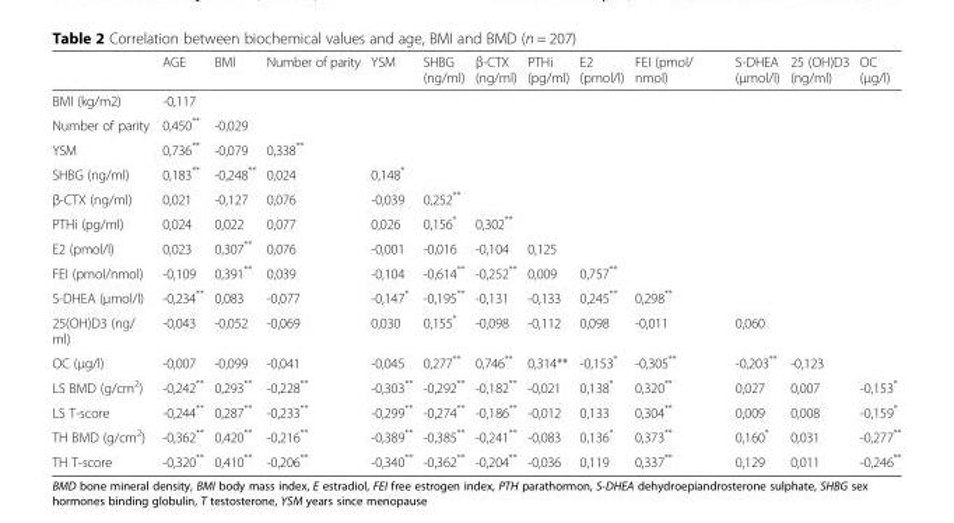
<table><thead><tr><td></td><td>AGE</td><td>BMI</td><td>Number of parity</td><td>YSM</td><td>SHBG (ng/ml)</td><td>β-CTX (ng/ml)</td><td>PTHi (pg/ml)</td><td>E2 (pmol/l)</td><td>FEI (pmol/ nmol)</td><td>S-DHEA (μmol/l)</td><td>25 (OH)D3 (ng/ml)</td><td>OC (μg/l)</td></tr></thead><tbody><tr><td>BMI (kg/m2)</td><td>-0,117</td><td></td><td></td><td></td><td></td><td></td><td></td><td></td><td></td><td></td><td></td><td></td></tr><tr><td>Number of parity</td><td>0,450**</td><td>-0,029</td><td></td><td></td><td></td><td></td><td></td><td></td><td></td><td></td><td></td><td></td></tr><tr><td>YSM</td><td>0,736**</td><td>-0,079</td><td>0,338**</td><td></td><td></td><td></td><td></td><td></td><td></td><td></td><td></td><td></td></tr><tr><td>SHBG (ng/ml)</td><td>0,183**</td><td>-0,248**</td><td>0,024</td><td>0,148*</td><td></td><td></td><td></td><td></td><td></td><td></td><td></td><td></td></tr><tr><td>β-CTX (ng/ml)</td><td>0,021</td><td>-0,127</td><td>0,076</td><td>-0,039</td><td>0,252**</td><td></td><td></td><td></td><td></td><td></td><td></td><td></td></tr><tr><td>PTHi (pg/ml)</td><td>0,024</td><td>0,022</td><td>0,077</td><td>0,026</td><td>0,156*</td><td>0,302**</td><td></td><td></td><td></td><td></td><td></td><td></td></tr><tr><td>E2 (pmol/l)</td><td>0,023</td><td>0,307**</td><td>0,076</td><td>-0,001</td><td>-0,016</td><td>-0,104</td><td>0,125</td><td></td><td></td><td></td><td></td><td></td></tr><tr><td>FEI (pmol/nmol)</td><td>-0,109</td><td>0,391**</td><td>0,039</td><td>-0,104</td><td>-0,614**</td><td>-0,252**</td><td>0,009</td><td>0,757**</td><td></td><td></td><td></td><td></td></tr><tr><td>S-DHEA (μmol/l)</td><td>-0,234**</td><td>0,083</td><td>-0,077</td><td>-0,147*</td><td>-0,195**</td><td>-0,131</td><td>-0,133</td><td>0,245**</td><td>0,298**</td><td></td><td></td><td></td></tr><tr><td>25(OH)D3 (ng/ ml)</td><td>-0,043</td><td>-0,052</td><td>-0,069</td><td>0,030</td><td>0,155*</td><td>-0,098</td><td>-0,112</td><td>0,098</td><td>-0,011</td><td>0,060</td><td></td><td></td></tr><tr><td>OC (μg/l)</td><td>-0,007</td><td>-0,099</td><td>-0,041</td><td>-0,045</td><td>0,277**</td><td>0,746**</td><td>0,314**</td><td>-0,153*</td><td>-0,305**</td><td>-0,203**</td><td>-0,123</td><td></td></tr><tr><td>LS BMD (g/cm<sup>2</sup>)</td><td>-0,242**</td><td>0,293**</td><td>-0,228**</td><td>-0,303**</td><td>-0,292**</td><td>-0,182**</td><td>-0,021</td><td>0,138*</td><td>0,320**</td><td>0,027</td><td>0,007</td><td>-0,153*</td></tr><tr><td>LS T-score</td><td>-0,244**</td><td>0,287**</td><td>-0,233**</td><td>-0,299**</td><td>-0,274**</td><td>-0,186**</td><td>-0,012</td><td>0,133</td><td>0,304**</td><td>0,009</td><td>0,008</td><td>-0,159*</td></tr><tr><td>TH BMD (g/cm<sup>2</sup>)</td><td>-0,362**</td><td>0,420**</td><td>-0,216**</td><td>-0,389**</td><td>-0,385**</td><td>-0,241**</td><td>-0,083</td><td>0,136*</td><td>0,373**</td><td>0,160*</td><td>0,031</td><td>-0,277**</td></tr><tr><td>TH T-score</td><td>-0,320**</td><td>0,410**</td><td>-0,206**</td><td>-0,340**</td><td>-0,362**</td><td>-0,204**</td><td>-0,036</td><td>0,119</td><td>0,337**</td><td>0,129</td><td>0,011</td><td>-0,246**</td></tr></tbody></table>